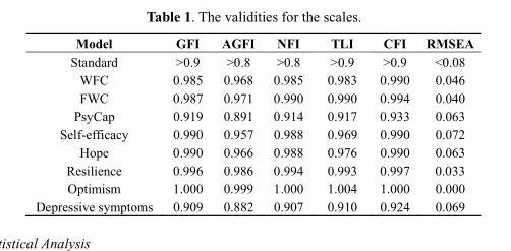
<table><thead><tr><td>Model</td><td>GFI</td><td>AGFI</td><td>NFI</td><td>TLI</td><td>CFI</td><td>RMSEA</td></tr></thead><tbody><tr><td>Standard</td><td>&gt;0.9</td><td>&gt;0.8</td><td>&gt;0.8</td><td>&gt;0.9</td><td>&gt;0.9</td><td>&lt;0.08</td></tr><tr><td>WFC</td><td>0.985</td><td>0.968</td><td>0.985</td><td>0.983</td><td>0.990</td><td>0.046</td></tr><tr><td>FWC</td><td>0.987</td><td>0.971</td><td>0.990</td><td>0.990</td><td>0.994</td><td>0.040</td></tr><tr><td>PsyCap</td><td>0.919</td><td>0.891</td><td>0.914</td><td>0.917</td><td>0.933</td><td>0.063</td></tr><tr><td>Self-efficacy</td><td>0.990</td><td>0.957</td><td>0.988</td><td>0.969</td><td>0.990</td><td>0.072</td></tr><tr><td>Hope</td><td>0.990</td><td>0.966</td><td>0.988</td><td>0.976</td><td>0.990</td><td>0.063</td></tr><tr><td>Resilience</td><td>0.996</td><td>0.986</td><td>0.994</td><td>0.993</td><td>0.997</td><td>0.033</td></tr><tr><td>Optimism</td><td>1.000</td><td>0.999</td><td>1.000</td><td>1.004</td><td>1.000</td><td>0.000</td></tr><tr><td>Depressive symptoms</td><td>0.909</td><td>0.882</td><td>0.907</td><td>0.910</td><td>0.924</td><td>0.069</td></tr></tbody></table>